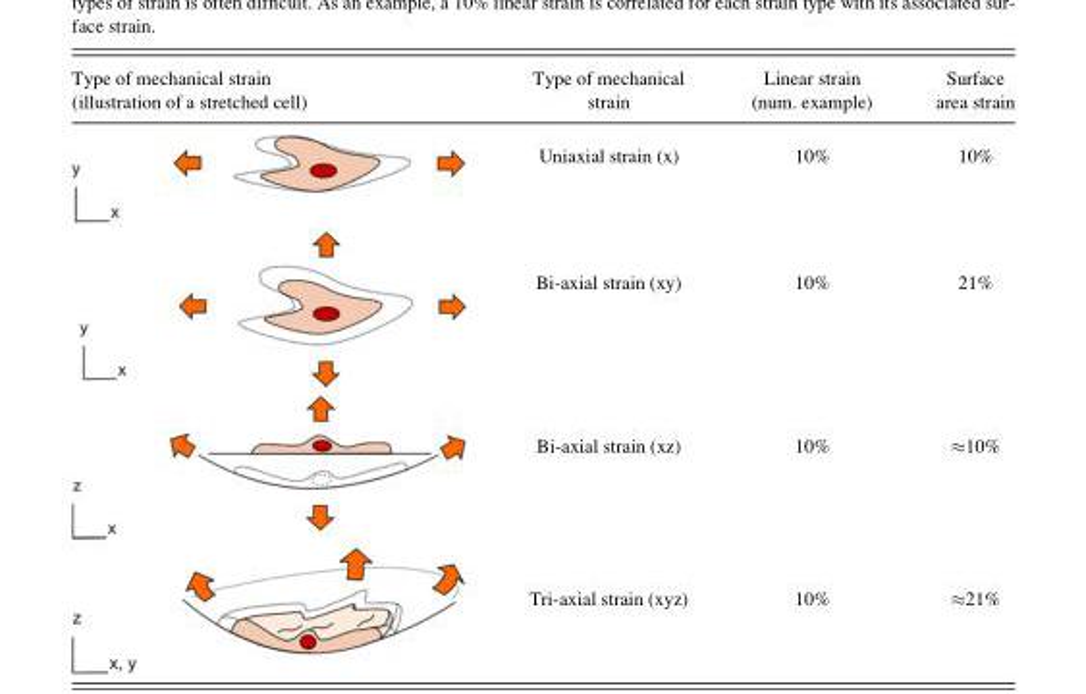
<table><thead><tr><td>Type of mechanical strain (illustration of a stretched cell)</td><td>Type of mechanical strain</td><td>Linear strain (num. example)</td><td>Surface area strain</td></tr></thead><tbody><tr><td></td><td>Uniaxial strain (x)</td><td>10%</td><td>10%</td></tr><tr><td></td><td>Bi-axial strain (xy)</td><td>10%</td><td>21%</td></tr><tr><td></td><td>Bi-axial strain (xz)</td><td>10%</td><td>≈10%</td></tr><tr><td></td><td>Tri-axial strain (xyz)</td><td>10%</td><td>≈21%</td></tr></tbody></table>